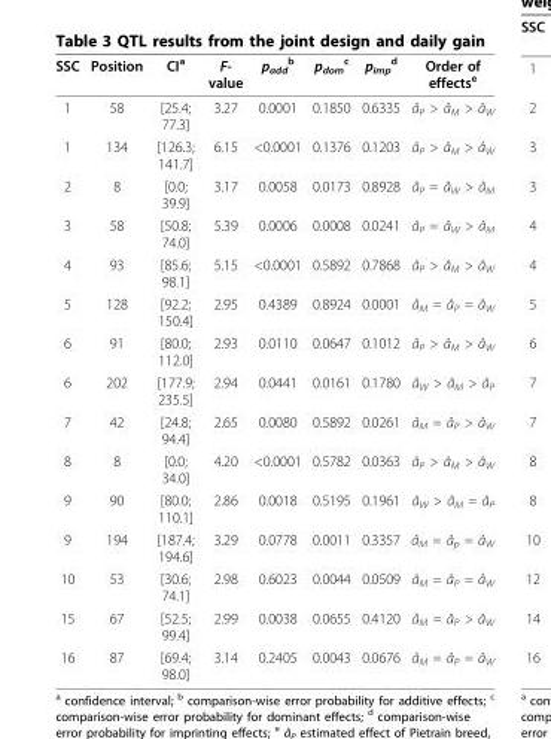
<table><thead><tr><td>SSC</td><td>Position</td><td>CI<sup>a</sup></td><td>F- value</td><td>p<sub>add</sub> <sup>b</sup></td><td>p<sub>dom</sub> <sup>c</sup></td><td>p<sub>imp</sub> <sup>d</sup></td><td>Order of effects<sup>e</sup></td></tr></thead><tbody><tr><td>1</td><td>58</td><td>[25.4; 77.3]</td><td>3.27</td><td>0.0001</td><td>0.1850</td><td>0.6335</td><td>â<sub>P</sub> &gt; â<sub>M</sub> &gt; â<sub>W</sub></td></tr><tr><td>1</td><td>134</td><td>[126.3; 141.7]</td><td>6.15</td><td>&lt;0.0001</td><td>0.1376</td><td>0.1203</td><td>â<sub>P</sub> &gt; â<sub>M</sub> &gt; â<sub>W</sub></td></tr><tr><td>2</td><td>8</td><td>[0.0; 39.9]</td><td>3.17</td><td>0.0058</td><td>0.0173</td><td>0.8928</td><td>â<sub>P</sub> = â<sub>W</sub> &gt; â<sub>M</sub></td></tr><tr><td>3</td><td>58</td><td>[50.8; 74.0]</td><td>5.39</td><td>0.0006</td><td>0.0008</td><td>0.0241</td><td>â<sub>P</sub> = â<sub>W</sub> &gt; â<sub>M</sub></td></tr><tr><td>4</td><td>93</td><td>[85.6; 98.1]</td><td>5.15</td><td>&lt;0.0001</td><td>0.5892</td><td>0.7868</td><td>â<sub>P</sub> &gt; â<sub>M</sub> &gt; â<sub>W</sub></td></tr><tr><td>5</td><td>128</td><td>[92.2; 150.4]</td><td>2.95</td><td>0.4389</td><td>0.8924</td><td>0.0001</td><td>â<sub>M</sub> = â<sub>P</sub> = â<sub>W</sub></td></tr><tr><td>6</td><td>91</td><td>[80.0; 112.0]</td><td>2.93</td><td>0.0110</td><td>0.0647</td><td>0.1012</td><td>â<sub>P</sub> &gt; â<sub>M</sub> &gt; â<sub>W</sub></td></tr><tr><td>6</td><td>202</td><td>[177.9; 235.5]</td><td>2.94</td><td>0.0441</td><td>0.0161</td><td>0.1780</td><td>â<sub>W</sub> &gt; â<sub>M</sub> &gt; â<sub>P</sub></td></tr><tr><td>7</td><td>42</td><td>[24.8; 94.4]</td><td>2.65</td><td>0.0080</td><td>0.5892</td><td>0.0261</td><td>â<sub>M</sub> = â<sub>P</sub> &gt; â<sub>W</sub></td></tr><tr><td>8</td><td>8</td><td>[0.0; 34.0]</td><td>4.20</td><td>&lt;0.0001</td><td>0.5782</td><td>0.0363</td><td>â<sub>P</sub> &gt; â<sub>M</sub> &gt; â<sub>W</sub></td></tr><tr><td>9</td><td>90</td><td>[80.0; 110.1]</td><td>2.86</td><td>0.0018</td><td>0.5195</td><td>0.1961</td><td>â<sub>W</sub> &gt; â<sub>M</sub> = â<sub>P</sub></td></tr><tr><td>9</td><td>194</td><td>[187.4; 194.6]</td><td>3.29</td><td>0.0778</td><td>0.0011</td><td>0.3357</td><td>â<sub>M</sub> = â<sub>p</sub> = â<sub>W</sub></td></tr><tr><td>10</td><td>53</td><td>[30.6; 74.1]</td><td>2.98</td><td>0.6023</td><td>0.0044</td><td>0.0509</td><td>â<sub>M</sub> = â<sub>P</sub> = â<sub>W</sub></td></tr><tr><td>15</td><td>67</td><td>[52.5; 99.4]</td><td>2.99</td><td>0.0038</td><td>0.0655</td><td>0.4120</td><td>â<sub>M</sub> = â<sub>P</sub> &gt; â<sub>W</sub></td></tr><tr><td>16</td><td>87</td><td>[69.4; 98.0]</td><td>3.14</td><td>0.2405</td><td>0.0043</td><td>0.0676</td><td>â<sub>M</sub> = â<sub>P</sub> = â<sub>W</sub></td></tr></tbody></table>